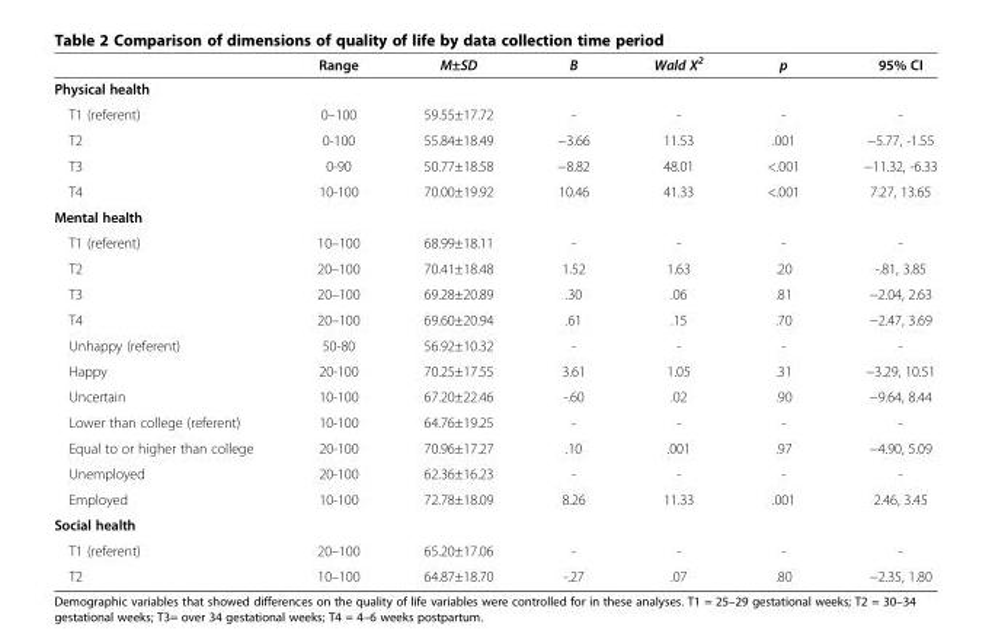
<table><thead><tr><td></td><td>Range</td><td>M±SD</td><td>B</td><td>Wald X<sup>2</sup></td><td>p</td><td>95% CI</td></tr></thead><tbody><tr><td colspan="7">Physical health</td></tr><tr><td>T1 (referent)</td><td>0–100</td><td>59.55±17.72</td><td>-</td><td>-</td><td>-</td><td>-</td></tr><tr><td>T2</td><td>0-100</td><td>55.84±18.49</td><td>−3.66</td><td>11.53</td><td>.001</td><td>−5.77, -1.55</td></tr><tr><td>T3</td><td>0-90</td><td>50.77±18.58</td><td>−8.82</td><td>48.01</td><td>&lt;.001</td><td>−11.32, -6.33</td></tr><tr><td>T4</td><td>10-100</td><td>70.00±19.92</td><td>10.46</td><td>41.33</td><td>&lt;.001</td><td>7.27, 13.65</td></tr><tr><td colspan="7">Mental health</td></tr><tr><td>T1 (referent)</td><td>10–100</td><td>68.99±18.11</td><td>-</td><td>-</td><td>-</td><td>-</td></tr><tr><td>T2</td><td>20–100</td><td>70.41±18.48</td><td>1.52</td><td>1.63</td><td>.20</td><td>-.81, 3.85</td></tr><tr><td>T3</td><td>20–100</td><td>69.28±20.89</td><td>.30</td><td>.06</td><td>.81</td><td>−2.04, 2.63</td></tr><tr><td>T4</td><td>20–100</td><td>69.60±20.94</td><td>.61</td><td>.15</td><td>.70</td><td>−2.47, 3.69</td></tr><tr><td>Unhappy (referent)</td><td>50-80</td><td>56.92±10.32</td><td>-</td><td>-</td><td>-</td><td>-</td></tr><tr><td>Happy</td><td>20-100</td><td>70.25±17.55</td><td>3.61</td><td>1.05</td><td>.31</td><td>−3.29, 10.51</td></tr><tr><td>Uncertain</td><td>10-100</td><td>67.20±22.46</td><td>-.60</td><td>.02</td><td>.90</td><td>−9.64, 8.44</td></tr><tr><td>Lower than college (referent)</td><td>10-100</td><td>64.76±19.25</td><td>-</td><td>-</td><td>-</td><td>-</td></tr><tr><td>Equal to or higher than college</td><td>20-100</td><td>70.96±17.27</td><td>.10</td><td>.001</td><td>.97</td><td>−4.90, 5.09</td></tr><tr><td>Unemployed</td><td>20-100</td><td>62.36±16.23</td><td>-</td><td>-</td><td>-</td><td>-</td></tr><tr><td>Employed</td><td>10-100</td><td>72.78±18.09</td><td>8.26</td><td>11.33</td><td>.001</td><td>2.46, 3.45</td></tr><tr><td colspan="7">Social health</td></tr><tr><td>T1 (referent)</td><td>20–100</td><td>65.20±17.06</td><td>-</td><td>-</td><td>-</td><td>-</td></tr><tr><td>T2</td><td>10–100</td><td>64.87±18.70</td><td>-.27</td><td>.07</td><td>.80</td><td>−2.35, 1.80</td></tr></tbody></table>